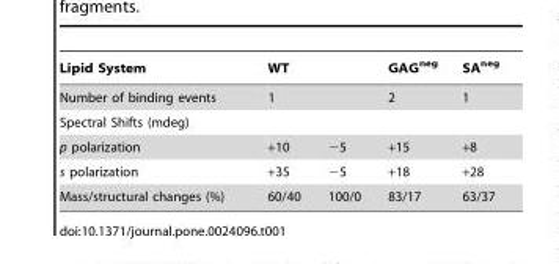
<table><thead><tr><td>Lipid System</td><td>WT</td><td></td><td>GAG<sup>neg</sup></td><td>SA<sup>neg</sup></td></tr></thead><tbody><tr><td>Number of binding events</td><td>1</td><td></td><td>2</td><td>1</td></tr><tr><td colspan="5">Spectral Shifts (mdeg)</td></tr><tr><td>p polarization</td><td>+10</td><td>−5</td><td>+15</td><td>+8</td></tr><tr><td>s polarization</td><td>+35</td><td>−5</td><td>+18</td><td>+28</td></tr><tr><td>Mass/structural changes (%)</td><td>60/40</td><td>100/0</td><td>83/17</td><td>63/37</td></tr></tbody></table>